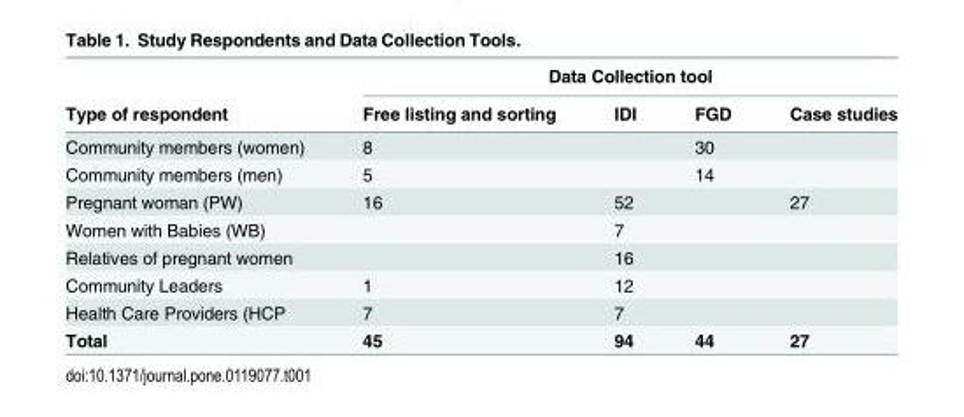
<table><thead><tr><td rowspan="2">Type of respondent</td><td colspan="4">Data Collection tool</td></tr><tr><td>Free listing and sorting</td><td>IDI</td><td>FGD</td><td>Case studies</td></tr></thead><tbody><tr><td>Community members (women)</td><td>8</td><td></td><td>30</td><td></td></tr><tr><td>Community members (men)</td><td>5</td><td></td><td>14</td><td></td></tr><tr><td>Pregnant woman (PW)</td><td>16</td><td>52</td><td></td><td>27</td></tr><tr><td>Women with Babies (WB)</td><td></td><td>7</td><td></td><td></td></tr><tr><td>Relatives of pregnant women</td><td></td><td>16</td><td></td><td></td></tr><tr><td>Community Leaders</td><td>1</td><td>12</td><td></td><td></td></tr><tr><td>Health Care Providers (HCP</td><td>7</td><td>7</td><td></td><td></td></tr><tr><td>Total</td><td>45</td><td>94</td><td>44</td><td>27</td></tr></tbody></table>